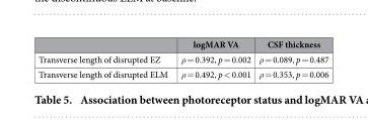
<table><thead><tr><td></td><td>logMAR VA</td><td>CSF thickness</td></tr></thead><tbody><tr><td>Transverse length of disrupted EZ</td><td>ρ = 0.392, p = 0.002</td><td>ρ = 0.089, p = 0.487</td></tr><tr><td>Transverse length of disrupted ELM</td><td>ρ = 0.492, p &lt; 0.001</td><td>ρ = 0.353, p = 0.006</td></tr></tbody></table>